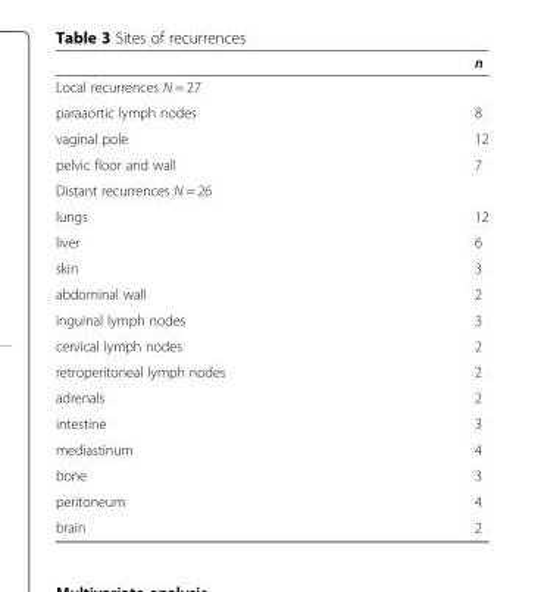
<table><thead><tr><td></td><td>n</td></tr></thead><tbody><tr><td colspan="2">Local recurrences N = 27</td></tr><tr><td>paraaortic lymph nodes</td><td>8</td></tr><tr><td>vaginal pole</td><td>12</td></tr><tr><td>pelvic floor and wall</td><td>7</td></tr><tr><td colspan="2">Distant recurrences N = 26</td></tr><tr><td>lungs</td><td>12</td></tr><tr><td>liver</td><td>6</td></tr><tr><td>skin</td><td>3</td></tr><tr><td>abdominal wall</td><td>2</td></tr><tr><td>inguinal lymph nodes</td><td>3</td></tr><tr><td>cervical lymph nodes</td><td>2</td></tr><tr><td>retroperitoneal lymph nodes</td><td>2</td></tr><tr><td>adrenals</td><td>2</td></tr><tr><td>intestine</td><td>3</td></tr><tr><td>mediastinum</td><td>4</td></tr><tr><td>bone</td><td>3</td></tr><tr><td>peritoneum</td><td>4</td></tr><tr><td>brain</td><td>2</td></tr></tbody></table>